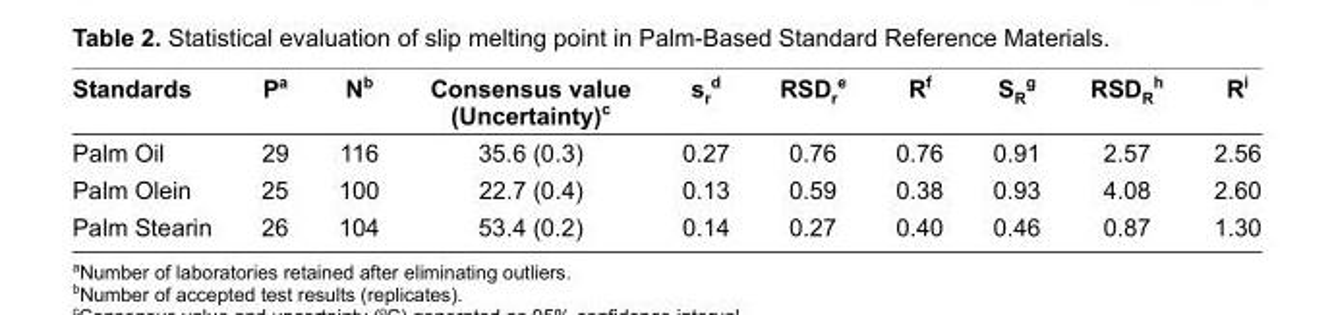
<table><thead><tr><td>Standards</td><td>P<sup>a</sup></td><td>N<sup>b</sup></td><td>Consensus value (Uncertainty)<sup>c</sup></td><td>s<sub>r</sub> <sup>d</sup></td><td>RSD<sub>r</sub> <sup>e</sup></td><td>R<sup>f</sup></td><td>S<sub>R</sub> <sup>g</sup></td><td>RSD<sub>R</sub> <sup>h</sup></td><td>R<sup>i</sup></td></tr></thead><tbody><tr><td>Palm Oil</td><td>29</td><td>116</td><td>35.6 (0.3)</td><td>0.27</td><td>0.76</td><td>0.76</td><td>0.91</td><td>2.57</td><td>2.56</td></tr><tr><td>Palm Olein</td><td>25</td><td>100</td><td>22.7 (0.4)</td><td>0.13</td><td>0.59</td><td>0.38</td><td>0.93</td><td>4.08</td><td>2.60</td></tr><tr><td>Palm Stearin</td><td>26</td><td>104</td><td>53.4 (0.2)</td><td>0.14</td><td>0.27</td><td>0.40</td><td>0.46</td><td>0.87</td><td>1.30</td></tr></tbody></table>